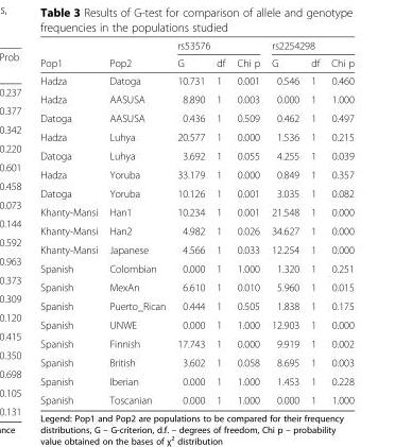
<table><thead><tr><td rowspan="2">Pop1</td><td rowspan="2">Pop2</td><td colspan="3">rs53576</td><td colspan="3">rs2254298</td></tr><tr><td>G</td><td>df</td><td>Chi p</td><td>G</td><td>df</td><td>Chi p</td></tr></thead><tbody><tr><td>Hadza</td><td>Datoga</td><td>10.731</td><td>1</td><td>0.001</td><td>0.546</td><td>1</td><td>0.460</td></tr><tr><td>Hadza</td><td>AASUSA</td><td>8.890</td><td>1</td><td>0.003</td><td>0.000</td><td>1</td><td>1.000</td></tr><tr><td>Datoga</td><td>AASUSA</td><td>0.436</td><td>1</td><td>0.509</td><td>0.462</td><td>1</td><td>0.497</td></tr><tr><td>Hadza</td><td>Luhya</td><td>20.577</td><td>1</td><td>0.000</td><td>1.536</td><td>1</td><td>0.215</td></tr><tr><td>Datoga</td><td>Luhya</td><td>3.692</td><td>1</td><td>0.055</td><td>4.255</td><td>1</td><td>0.039</td></tr><tr><td>Hadza</td><td>Yoruba</td><td>33.179</td><td>1</td><td>0.000</td><td>0.849</td><td>1</td><td>0.357</td></tr><tr><td>Datoga</td><td>Yoruba</td><td>10.126</td><td>1</td><td>0.001</td><td>3.035</td><td>1</td><td>0.082</td></tr><tr><td>Khanty-Mansi</td><td>Han1</td><td>10.234</td><td>1</td><td>0.001</td><td>21.548</td><td>1</td><td>0.000</td></tr><tr><td>Khanty-Mansi</td><td>Han2</td><td>4.982</td><td>1</td><td>0.026</td><td>34.627</td><td>1</td><td>0.000</td></tr><tr><td>Khanty-Mansi</td><td>Japanese</td><td>4.566</td><td>1</td><td>0.033</td><td>12.254</td><td>1</td><td>0.000</td></tr><tr><td>Spanish</td><td>Colombian</td><td>0.000</td><td>1</td><td>1.000</td><td>1.320</td><td>1</td><td>0.251</td></tr><tr><td>Spanish</td><td>MexAn</td><td>6.610</td><td>1</td><td>0.010</td><td>5.960</td><td>1</td><td>0.015</td></tr><tr><td>Spanish</td><td>Puerto_Rican</td><td>0.444</td><td>1</td><td>0.505</td><td>1.838</td><td>1</td><td>0.175</td></tr><tr><td>Spanish</td><td>UNWE</td><td>0.000</td><td>1</td><td>1.000</td><td>12.903</td><td>1</td><td>0.000</td></tr><tr><td>Spanish</td><td>Finnish</td><td>17.743</td><td>1</td><td>0.000</td><td>9.919</td><td>1</td><td>0.002</td></tr><tr><td>Spanish</td><td>British</td><td>3.602</td><td>1</td><td>0.058</td><td>8.695</td><td>1</td><td>0.003</td></tr><tr><td>Spanish</td><td>Iberian</td><td>0.000</td><td>1</td><td>1.000</td><td>1.453</td><td>1</td><td>0.228</td></tr><tr><td>Spanish</td><td>Toscanian</td><td>0.000</td><td>1</td><td>1.000</td><td>0.000</td><td>1</td><td>1.000</td></tr></tbody></table>